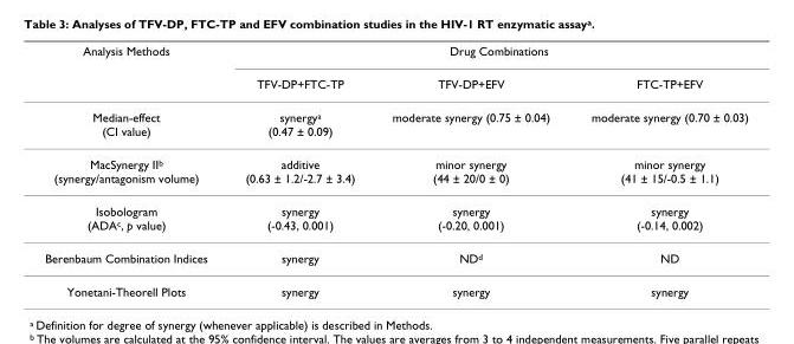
<table><thead><tr><td rowspan="2">Analysis Methods</td><td colspan="3">Drug Combinations</td></tr><tr><td>TFV-DP+FTC-TP</td><td>TFV-DP+EFV</td><td>FTC-TP+EFV</td></tr></thead><tbody><tr><td>Median-effect (CI value)</td><td>synergy<sup>a</sup> (0.47 ± 0.09)</td><td>moderate synergy (0.75 ± 0.04)</td><td>moderate synergy (0.70 ± 0.03)</td></tr><tr><td>MacSynergy II<sup>b</sup> (synergy/antagonism volume)</td><td>additive (0.63 ± 1.2/-2.7 ± 3.4)</td><td>minor synergy (44 ± 20/0 ± 0)</td><td>minor synergy (41 ± 15/-0.5 ± 1.1)</td></tr><tr><td>Isobologram (ADA<sup>c</sup>, p value)</td><td>synergy (-0.43, 0.001)</td><td>synergy (-0.20, 0.001)</td><td>synergy (-0.14, 0.002)</td></tr><tr><td>Berenbaum Combination Indices</td><td>synergy</td><td>ND<sup>d</sup></td><td>ND</td></tr><tr><td>Yonetani-Theorell Plots</td><td>synergy</td><td>synergy</td><td>synergy</td></tr></tbody></table>